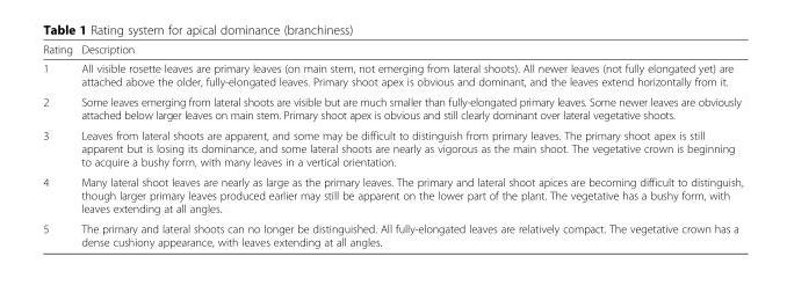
<table><thead><tr><td>Rating</td><td>Description</td></tr></thead><tbody><tr><td>1</td><td>All visible rosette leaves are primary leaves (on main stem, not emerging from lateral shoots). All newer leaves (not fully elongated yet) are attached above the older, fully-elongated leaves. Primary shoot apex is obvious and dominant, and the leaves extend horizontally from it.</td></tr><tr><td>2</td><td>Some leaves emerging from lateral shoots are visible but are much smaller than fully-elongated primary leaves. Some newer leaves are obviously attached below larger leaves on main stem. Primary shoot apex is obvious and still clearly dominant over lateral vegetative shoots.</td></tr><tr><td>3</td><td>Leaves from lateral shoots are apparent, and some may be difficult to distinguish from primary leaves. The primary shoot apex is still apparent but is losing its dominance, and some lateral shoots are nearly as vigorous as the main shoot. The vegetative crown is beginning to acquire a bushy form, with many leaves in a vertical orientation.</td></tr><tr><td>4</td><td>Many lateral shoot leaves are nearly as large as the primary leaves. The primary and lateral shoot apices are becoming difficult to distinguish, though larger primary leaves produced earlier may still be apparent on the lower part of the plant. The vegetative has a bushy form, with leaves extending at all angles.</td></tr><tr><td>5</td><td>The primary and lateral shoots can no longer be distinguished. All fully-elongated leaves are relatively compact. The vegetative crown has a dense cushiony appearance, with leaves extending at all angles.</td></tr></tbody></table>